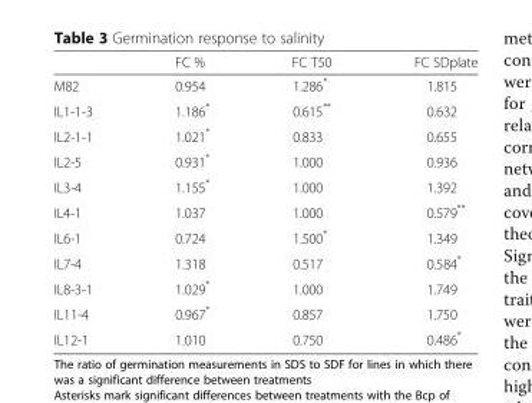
<table><thead><tr><td></td><td>FC %</td><td>FC T50</td><td>FC SDplate</td></tr></thead><tbody><tr><td>M82</td><td>0.954</td><td>1.286*</td><td>1.815</td></tr><tr><td>IL1-1-3</td><td>1.186*</td><td>0.615**</td><td>0.632</td></tr><tr><td>IL2-1-1</td><td>1.021*</td><td>0.833</td><td>0.655</td></tr><tr><td>IL2-5</td><td>0.931*</td><td>1.000</td><td>0.936</td></tr><tr><td>IL3-4</td><td>1.155*</td><td>1.000</td><td>1.392</td></tr><tr><td>IL4-1</td><td>1.037</td><td>1.000</td><td>0.579**</td></tr><tr><td>IL6-1</td><td>0.724</td><td>1.500*</td><td>1.349</td></tr><tr><td>IL7-4</td><td>1.318</td><td>0.517</td><td>0.584*</td></tr><tr><td>IL8-3-1</td><td>1.029*</td><td>1.000</td><td>1.749</td></tr><tr><td>IL11-4</td><td>0.967*</td><td>0.857</td><td>1.750</td></tr><tr><td>IL12-1</td><td>1.010</td><td>0.750</td><td>0.486*</td></tr></tbody></table>